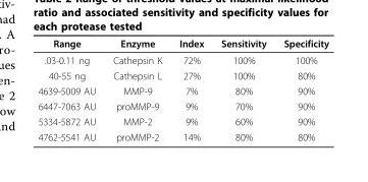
<table><thead><tr><td>Range</td><td>Enzyme</td><td>Index</td><td>Sensitivity</td><td>Specificity</td></tr></thead><tbody><tr><td>.03-0.11 ng</td><td>Cathepsin K</td><td>72%</td><td>100%</td><td>100%</td></tr><tr><td>40-55 ng</td><td>Cathepsin L</td><td>27%</td><td>100%</td><td>80%</td></tr><tr><td>4639-5009 AU</td><td>MMP-9</td><td>7%</td><td>80%</td><td>90%</td></tr><tr><td>6447-7063 AU</td><td>proMMP-9</td><td>9%</td><td>70%</td><td>90%</td></tr><tr><td>5334-5872 AU</td><td>MMP-2</td><td>9%</td><td>60%</td><td>90%</td></tr><tr><td>4762-5541 AU</td><td>proMMP-2</td><td>14%</td><td>80%</td><td>80%</td></tr></tbody></table>